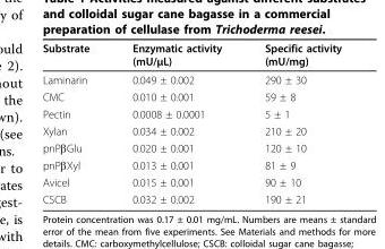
<table><thead><tr><td>Substrate</td><td>Enzymatic activity (mU/μL)</td><td>Specific activity (mU/mg)</td></tr></thead><tbody><tr><td>Laminarin</td><td>0.049 ± 0.002</td><td>290 ± 30</td></tr><tr><td>CMC</td><td>0.010 ± 0.001</td><td>59 ± 8</td></tr><tr><td>Pectin</td><td>0.0008 ± 0.0001</td><td>5 ± 1</td></tr><tr><td>Xylan</td><td>0.034 ± 0.002</td><td>210 ± 20</td></tr><tr><td>pnPβGlu</td><td>0.020 ± 0.001</td><td>120 ± 10</td></tr><tr><td>pnPβXyl</td><td>0.013 ± 0.001</td><td>81 ± 9</td></tr><tr><td>Avicel</td><td>0.015 ± 0.001</td><td>90 ± 10</td></tr><tr><td>CSCB</td><td>0.032 ± 0.002</td><td>190 ± 21</td></tr></tbody></table>